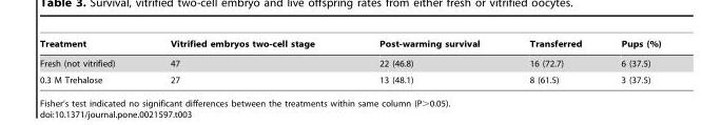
<table><thead><tr><td>Treatment</td><td>Vitrified embryos two-cell stage</td><td>Post-warming survival</td><td>Transferred</td><td>Pups (%)</td></tr></thead><tbody><tr><td>Fresh (not vitrified)</td><td>47</td><td>22 (46.8)</td><td>16 (72.7)</td><td>6 (37.5)</td></tr><tr><td>0.3 M Trehalose</td><td>27</td><td>13 (48.1)</td><td>8 (61.5)</td><td>3 (37.5)</td></tr></tbody></table>